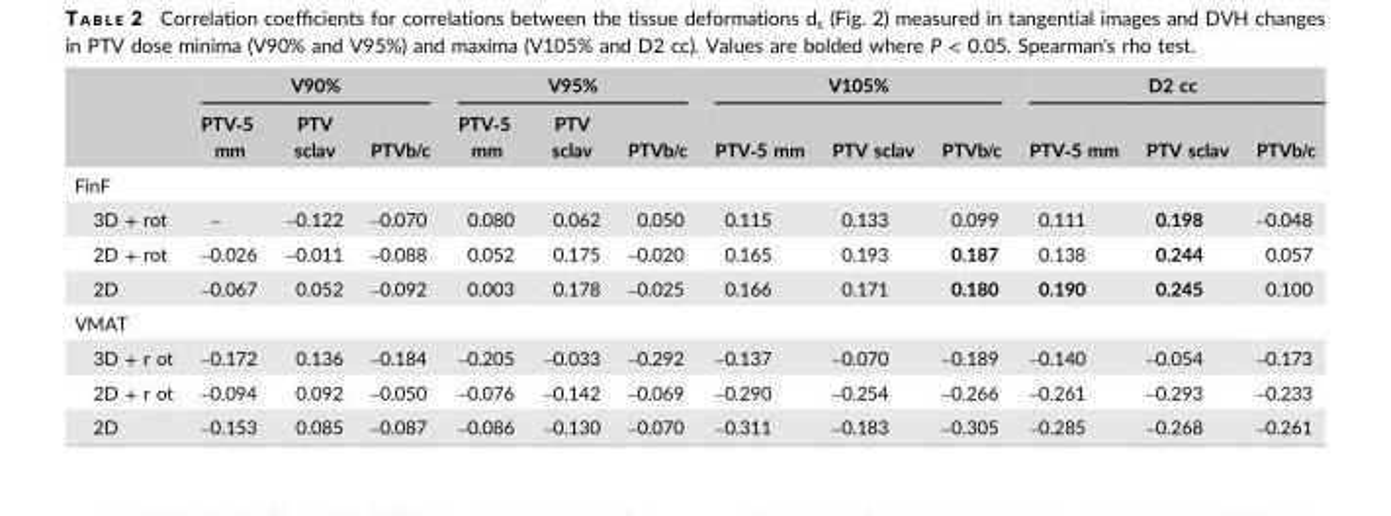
<table><thead><tr><td rowspan="2"></td><td colspan="3">V90%</td><td colspan="3">V95%</td><td colspan="3">V105%</td><td colspan="3">D2 cc</td></tr><tr><td>PTV‐5 mm</td><td>PTV sclav</td><td>PTVb/c</td><td>PTV‐5 mm</td><td>PTV sclav</td><td>PTVb/c</td><td>PTV‐5 mm</td><td>PTV sclav</td><td>PTVb/c</td><td>PTV‐5 mm</td><td>PTV sclav</td><td>PTVb/c</td></tr></thead><tbody><tr><td colspan="13">FinF</td></tr><tr><td>3D + rot</td><td>–</td><td>–0.122</td><td>–0.070</td><td>0.080</td><td>0.062</td><td>0.050</td><td>0.115</td><td>0.133</td><td>0.099</td><td>0.111</td><td>0.198</td><td>–0.048</td></tr><tr><td>2D + rot</td><td>–0.026</td><td>–0.011</td><td>–0.088</td><td>0.052</td><td>0.175</td><td>–0.020</td><td>0.165</td><td>0.193</td><td>0.187</td><td>0.138</td><td>0.244</td><td>0.057</td></tr><tr><td>2D</td><td>–0.067</td><td>0.052</td><td>–0.092</td><td>0.003</td><td>0.178</td><td>–0.025</td><td>0.166</td><td>0.171</td><td>0.180</td><td>0.190</td><td>0.245</td><td>0.100</td></tr><tr><td colspan="13">VMAT</td></tr><tr><td>3D + r ot</td><td>–0.172</td><td>0.136</td><td>–0.184</td><td>–0.205</td><td>–0.033</td><td>–0.292</td><td>–0.137</td><td>–0.070</td><td>–0.189</td><td>–0.140</td><td>–0.054</td><td>–0.173</td></tr><tr><td>2D + r ot</td><td>–0.094</td><td>0.092</td><td>–0.050</td><td>–0.076</td><td>–0.142</td><td>–0.069</td><td>–0.290</td><td>–0.254</td><td>–0.266</td><td>–0.261</td><td>–0.293</td><td>–0.233</td></tr><tr><td>2D</td><td>–0.153</td><td>0.085</td><td>–0.087</td><td>–0.086</td><td>–0.130</td><td>–0.070</td><td>–0.311</td><td>–0.183</td><td>–0.305</td><td>–0.285</td><td>–0.268</td><td>–0.261</td></tr></tbody></table>